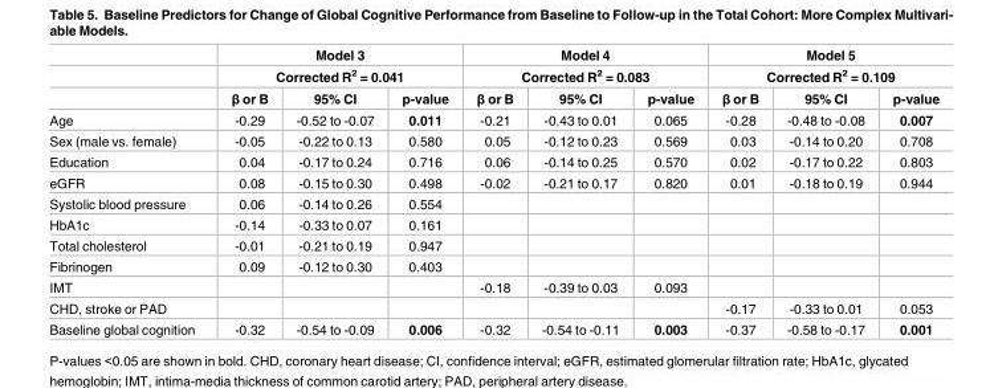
<table><thead><tr><td rowspan="3"></td><td rowspan="2" colspan="3">Model 3 Corrected R<sup>2</sup> = 0.041</td><td rowspan="2" colspan="3">Model 4 Corrected R<sup>2</sup> = 0.083</td><td rowspan="2" colspan="3">Model 5 Corrected R<sup>2</sup> = 0.109</td></tr><tr></tr><tr><td>β or B</td><td>95% CI</td><td>p-value</td><td>β or B</td><td>95% CI</td><td>p-value</td><td>β or B</td><td>95% CI</td><td>p-value</td></tr></thead><tbody><tr><td>Age</td><td>-0.29</td><td>-0.52 to -0.07</td><td>0.011</td><td>-0.21</td><td>-0.43 to 0.01</td><td>0.065</td><td>-0.28</td><td>-0.48 to -0.08</td><td>0.007</td></tr><tr><td>Sex (male vs. female)</td><td>-0.05</td><td>-0.22 to 0.13</td><td>0.580</td><td>0.05</td><td>-0.12 to 0.23</td><td>0.569</td><td>0.03</td><td>-0.14 to 0.20</td><td>0.708</td></tr><tr><td>Education</td><td>0.04</td><td>-0.17 to 0.24</td><td>0.716</td><td>0.06</td><td>-0.14 to 0.25</td><td>0.570</td><td>0.02</td><td>-0.17 to 0.22</td><td>0.803</td></tr><tr><td>eGFR</td><td>0.08</td><td>-0.15 to 0.30</td><td>0.498</td><td>-0.02</td><td>-0.21 to 0.17</td><td>0.820</td><td>0.01</td><td>-0.18 to 0.19</td><td>0.944</td></tr><tr><td>Systolic blood pressure</td><td>0.06</td><td>-0.14 to 0.26</td><td>0.554</td><td></td><td></td><td></td><td></td><td></td><td></td></tr><tr><td>HbA1c</td><td>-0.14</td><td>-0.33 to 0.07</td><td>0.161</td><td></td><td></td><td></td><td></td><td></td><td></td></tr><tr><td>Total cholesterol</td><td>-0.01</td><td>-0.21 to 0.19</td><td>0.947</td><td></td><td></td><td></td><td></td><td></td><td></td></tr><tr><td>Fibrinogen</td><td>0.09</td><td>-0.12 to 0.30</td><td>0.403</td><td></td><td></td><td></td><td></td><td></td><td></td></tr><tr><td>IMT</td><td></td><td></td><td></td><td>-0.18</td><td>-0.39 to 0.03</td><td>0.093</td><td></td><td></td><td></td></tr><tr><td>CHD, stroke or PAD</td><td></td><td></td><td></td><td></td><td></td><td></td><td>-0.17</td><td>-0.33 to 0.01</td><td>0.053</td></tr><tr><td>Baseline global cognition</td><td>-0.32</td><td>-0.54 to -0.09</td><td>0.006</td><td>-0.32</td><td>-0.54 to -0.11</td><td>0.003</td><td>-0.37</td><td>-0.58 to -0.17</td><td>0.001</td></tr></tbody></table>